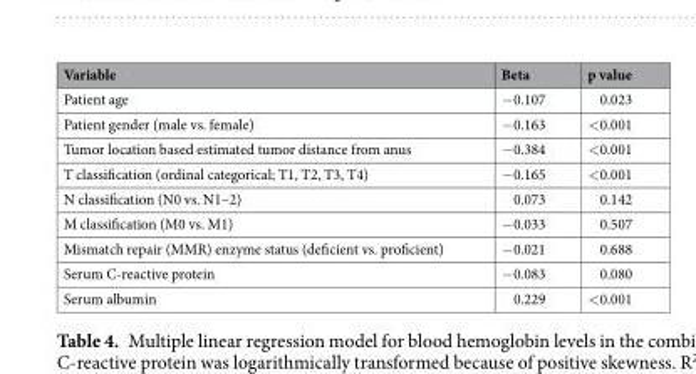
<table><thead><tr><td>Variable</td><td>Beta</td><td>p value</td></tr></thead><tbody><tr><td>Patient age</td><td>−0.107</td><td>0.023</td></tr><tr><td>Patient gender (male vs. female)</td><td>−0.163</td><td>&lt;0.001</td></tr><tr><td>Tumor location based estimated tumor distance from anus</td><td>−0.384</td><td>&lt;0.001</td></tr><tr><td>T classification (ordinal categorical; T1, T2, T3, T4)</td><td>−0.165</td><td>&lt;0.001</td></tr><tr><td>N classification (N0 vs. N1–2)</td><td>0.073</td><td>0.142</td></tr><tr><td>M classification (M0 vs. M1)</td><td>−0.033</td><td>0.507</td></tr><tr><td>Mismatch repair (MMR) enzyme status (deficient vs. proficient)</td><td>−0.021</td><td>0.688</td></tr><tr><td>Serum C-reactive protein</td><td>−0.083</td><td>0.080</td></tr><tr><td>Serum albumin</td><td>0.229</td><td>&lt;0.001</td></tr></tbody></table>